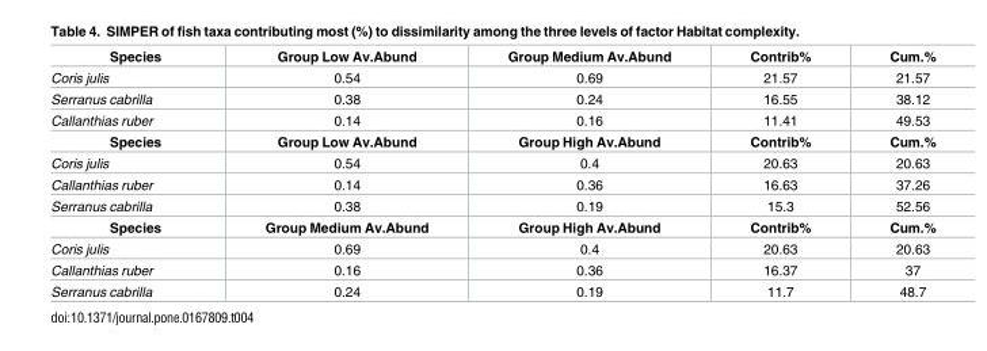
<table><tbody><tr><td>Species</td><td>Group Low Av.Abund</td><td>Group Medium Av.Abund</td><td>Contrib%</td><td>Cum.%</td></tr><tr><td>Coris julis</td><td>0.54</td><td>0.69</td><td>21.57</td><td>21.57</td></tr><tr><td>Serranus cabrilla</td><td>0.38</td><td>0.24</td><td>16.55</td><td>38.12</td></tr><tr><td>Callanthias ruber</td><td>0.14</td><td>0.16</td><td>11.41</td><td>49.53</td></tr><tr><td>Species</td><td>Group Low Av.Abund</td><td>Group High Av.Abund</td><td>Contrib%</td><td>Cum.%</td></tr><tr><td>Coris julis</td><td>0.54</td><td>0.4</td><td>20.63</td><td>20.63</td></tr><tr><td>Callanthias ruber</td><td>0.14</td><td>0.36</td><td>16.63</td><td>37.26</td></tr><tr><td>Serranus cabrilla</td><td>0.38</td><td>0.19</td><td>15.3</td><td>52.56</td></tr><tr><td>Species</td><td>Group Medium Av.Abund</td><td>Group High Av.Abund</td><td>Contrib%</td><td>Cum.%</td></tr><tr><td>Coris julis</td><td>0.69</td><td>0.4</td><td>20.63</td><td>20.63</td></tr><tr><td>Callanthias ruber</td><td>0.16</td><td>0.36</td><td>16.37</td><td>37</td></tr><tr><td>Serranus cabrilla</td><td>0.24</td><td>0.19</td><td>11.7</td><td>48.7</td></tr></tbody></table>